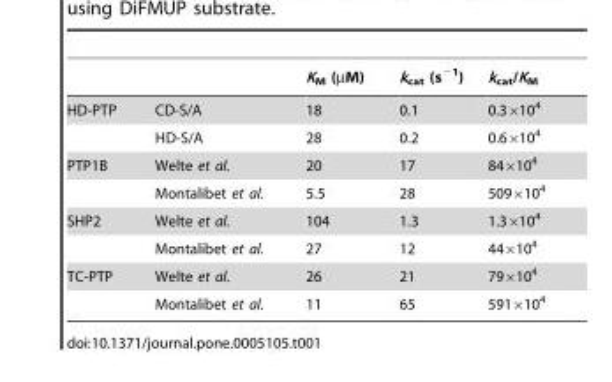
<table><thead><tr><td></td><td></td><td>K<sub>M</sub> (µM)</td><td>k<sub>cat</sub> (s<sup>−1</sup>)</td><td>k<sub>cat</sub>/K<sub>M</sub></td></tr></thead><tbody><tr><td rowspan="2">HD-PTP</td><td>CD-S/A</td><td>18</td><td>0.1</td><td>0.3×10<sup>4</sup></td></tr><tr><td>HD-S/A</td><td>28</td><td>0.2</td><td>0.6×10<sup>4</sup></td></tr><tr><td rowspan="2">PTP1B</td><td>Welte et al.</td><td>20</td><td>17</td><td>84×10<sup>4</sup></td></tr><tr><td>Montalibet et al.</td><td>5.5</td><td>28</td><td>509×10<sup>4</sup></td></tr><tr><td rowspan="2">SHP2</td><td>Welte et al.</td><td>104</td><td>1.3</td><td>1.3×10<sup>4</sup></td></tr><tr><td>Montalibet et al.</td><td>27</td><td>12</td><td>44×10<sup>4</sup></td></tr><tr><td rowspan="2">TC-PTP</td><td>Welte et al.</td><td>26</td><td>21</td><td>79×10<sup>4</sup></td></tr><tr><td>Montalibet et al.</td><td>11</td><td>65</td><td>591×10<sup>4</sup></td></tr></tbody></table>